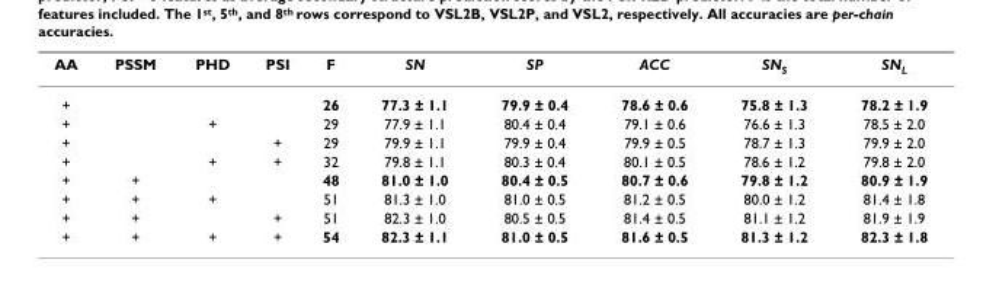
<table><thead><tr><td>AA</td><td>PSSM</td><td>PHD</td><td>PSI</td><td>F</td><td>SN</td><td>SP</td><td>ACC</td><td>SNS</td><td>SNL</td></tr></thead><tbody><tr><td>+</td><td></td><td></td><td></td><td>26</td><td>77.3 ± 1.1</td><td>79.9 ± 0.4</td><td>78.6 ± 0.6</td><td>75.8 ± 1.3</td><td>78.2 ± 1.9</td></tr><tr><td>+</td><td></td><td>+</td><td></td><td>29</td><td>77.9 ± 1.1</td><td>80.4 ± 0.4</td><td>79.1 ± 0.6</td><td>76.6 ± 1.3</td><td>78.5 ± 2.0</td></tr><tr><td>+</td><td></td><td></td><td>+</td><td>29</td><td>79.9 ± 1.1</td><td>79.9 ± 0.4</td><td>79.9 ± 0.5</td><td>78.7 ± 1.3</td><td>79.9 ± 2.0</td></tr><tr><td>+</td><td></td><td>+</td><td>+</td><td>32</td><td>79.8 ± 1.1</td><td>80.3 ± 0.4</td><td>80.1 ± 0.5</td><td>78.6 ± 1.2</td><td>79.8 ± 2.0</td></tr><tr><td>+</td><td>+</td><td></td><td></td><td>48</td><td>81.0 ± 1.0</td><td>80.4 ± 0.5</td><td>80.7 ± 0.6</td><td>79.8 ± 1.2</td><td>80.9 ± 1.9</td></tr><tr><td>+</td><td>+</td><td>+</td><td></td><td>51</td><td>81.3 ± 1.0</td><td>81.0 ± 0.5</td><td>81.2 ± 0.5</td><td>80.0 ± 1.2</td><td>81.4 ± 1.8</td></tr><tr><td>+</td><td>+</td><td></td><td>+</td><td>51</td><td>82.3 ± 1.0</td><td>80.5 ± 0.5</td><td>81.4 ± 0.5</td><td>81.1 ± 1.2</td><td>81.9 ± 1.9</td></tr><tr><td>+</td><td>+</td><td>+</td><td>+</td><td>54</td><td>82.3 ± 1.1</td><td>81.0 ± 0.5</td><td>81.6 ± 0.5</td><td>81.3 ± 1.2</td><td>82.3 ± 1.8</td></tr></tbody></table>